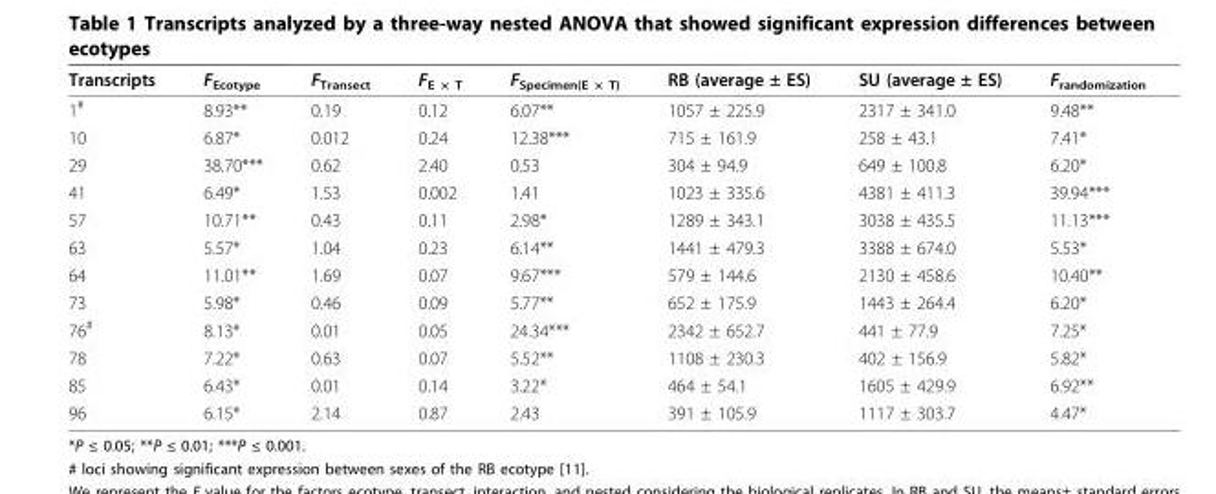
<table><thead><tr><td>Transcripts</td><td>F<sub>Ecotype</sub></td><td>F<sub>Transect</sub></td><td>F<sub>E × T</sub></td><td>F<sub>Specimen(E × T)</sub></td><td>RB (average ± ES)</td><td>SU (average ± ES)</td><td>F<sub>randomization</sub></td></tr></thead><tbody><tr><td>1<sup>#</sup></td><td>8.93**</td><td>0.19</td><td>0.12</td><td>6.07**</td><td>1057 ± 225.9</td><td>2317 ± 341.0</td><td>9.48**</td></tr><tr><td>10</td><td>6.87*</td><td>0.012</td><td>0.24</td><td>12.38***</td><td>715 ± 161.9</td><td>258 ± 43.1</td><td>7.41*</td></tr><tr><td>29</td><td>38.70***</td><td>0.62</td><td>2.40</td><td>0.53</td><td>304 ± 94.9</td><td>649 ± 100.8</td><td>6.20*</td></tr><tr><td>41</td><td>6.49*</td><td>1.53</td><td>0.002</td><td>1.41</td><td>1023 ± 335.6</td><td>4381 ± 411.3</td><td>39.94***</td></tr><tr><td>57</td><td>10.71**</td><td>0.43</td><td>0.11</td><td>2.98*</td><td>1289 ± 343.1</td><td>3038 ± 435.5</td><td>11.13***</td></tr><tr><td>63</td><td>5.57*</td><td>1.04</td><td>0.23</td><td>6.14**</td><td>1441 ± 479.3</td><td>3388 ± 674.0</td><td>5.53*</td></tr><tr><td>64</td><td>11.01**</td><td>1.69</td><td>0.07</td><td>9.67***</td><td>579 ± 144.6</td><td>2130 ± 458.6</td><td>10.40**</td></tr><tr><td>73</td><td>5.98*</td><td>0.46</td><td>0.09</td><td>5.77**</td><td>652 ± 175.9</td><td>1443 ± 264.4</td><td>6.20*</td></tr><tr><td>76<sup>#</sup></td><td>8.13*</td><td>0.01</td><td>0.05</td><td>24.34***</td><td>2342 ± 652.7</td><td>441 ± 77.9</td><td>7.25*</td></tr><tr><td>78</td><td>7.22*</td><td>0.63</td><td>0.07</td><td>5.52**</td><td>1108 ± 230.3</td><td>402 ± 156.9</td><td>5.82*</td></tr><tr><td>85</td><td>6.43*</td><td>0.01</td><td>0.14</td><td>3.22*</td><td>464 ± 54.1</td><td>1605 ± 429.9</td><td>6.92**</td></tr><tr><td>96</td><td>6.15*</td><td>2.14</td><td>0.87</td><td>2.43</td><td>391 ± 105.9</td><td>1117 ± 303.7</td><td>4.47*</td></tr></tbody></table>